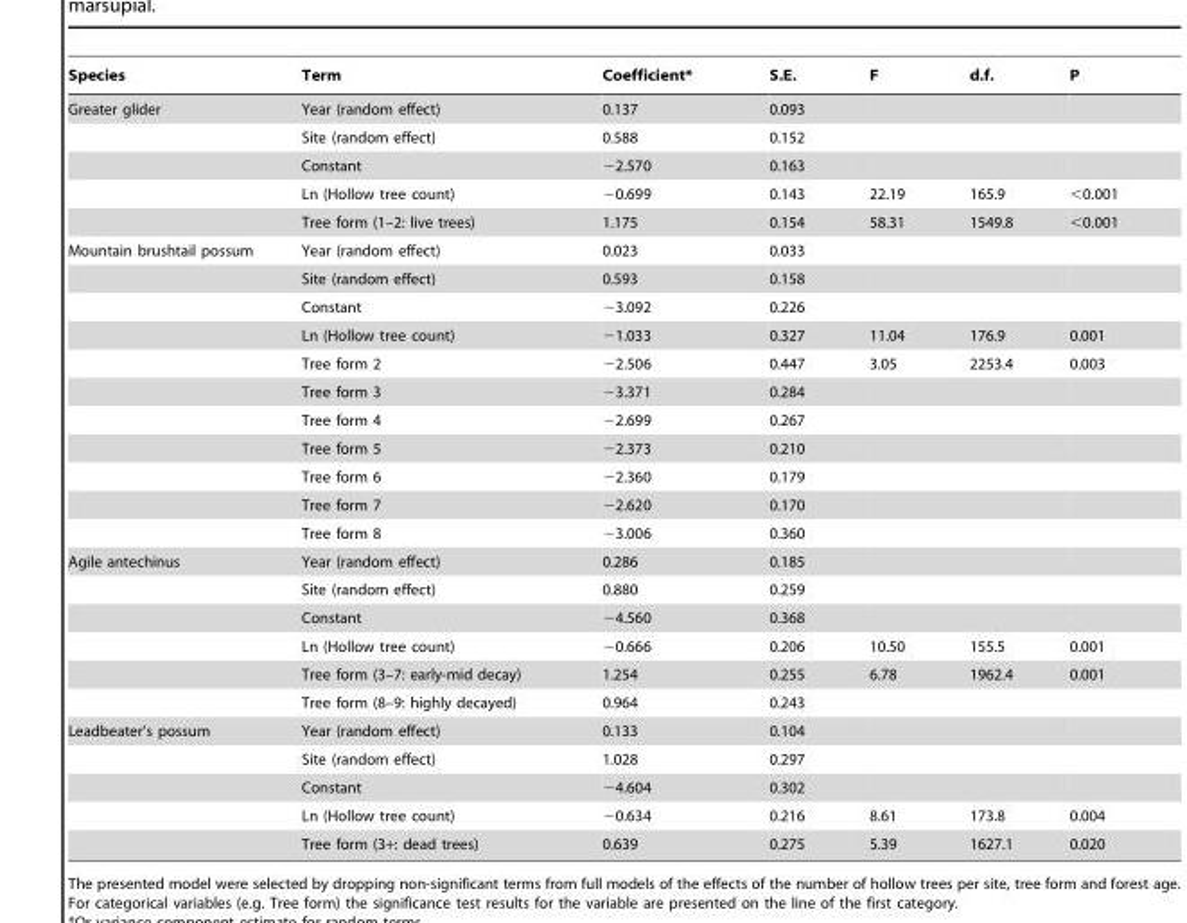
<table><thead><tr><td>Species</td><td>Term</td><td>Coefficient*</td><td>S.E.</td><td>F</td><td>d.f.</td><td>P</td></tr></thead><tbody><tr><td rowspan="5">Greater glider</td><td>Year (random effect)</td><td>0.137</td><td>0.093</td><td></td><td></td><td></td></tr><tr><td>Site (random effect)</td><td>0.588</td><td>0.152</td><td></td><td></td><td></td></tr><tr><td>Constant</td><td>−2.570</td><td>0.163</td><td></td><td></td><td></td></tr><tr><td>Ln (Hollow tree count)</td><td>−0.699</td><td>0.143</td><td>22.19</td><td>165.9</td><td>&lt;0.001</td></tr><tr><td>Tree form (1–2: live trees)</td><td>1.175</td><td>0.154</td><td>58.31</td><td>1549.8</td><td>&lt;0.001</td></tr><tr><td rowspan="11">Mountain brushtail possum</td><td>Year (random effect)</td><td>0.023</td><td>0.033</td><td></td><td></td><td></td></tr><tr><td>Site (random effect)</td><td>0.593</td><td>0.158</td><td></td><td></td><td></td></tr><tr><td>Constant</td><td>−3.092</td><td>0.226</td><td></td><td></td><td></td></tr><tr><td>Ln (Hollow tree count)</td><td>−1.033</td><td>0.327</td><td>11.04</td><td>176.9</td><td>0.001</td></tr><tr><td>Tree form 2</td><td>−2.506</td><td>0.447</td><td>3.05</td><td>2253.4</td><td>0.003</td></tr><tr><td>Tree form 3</td><td>−3.371</td><td>0.284</td><td></td><td></td><td></td></tr><tr><td>Tree form 4</td><td>−2.699</td><td>0.267</td><td></td><td></td><td></td></tr><tr><td>Tree form 5</td><td>−2.373</td><td>0.210</td><td></td><td></td><td></td></tr><tr><td>Tree form 6</td><td>−2.360</td><td>0.179</td><td></td><td></td><td></td></tr><tr><td>Tree form 7</td><td>−2.620</td><td>0.170</td><td></td><td></td><td></td></tr><tr><td>Tree form 8</td><td>−3.006</td><td>0.360</td><td></td><td></td><td></td></tr><tr><td rowspan="6">Agile antechinus</td><td>Year (random effect)</td><td>0.286</td><td>0.185</td><td></td><td></td><td></td></tr><tr><td>Site (random effect)</td><td>0.880</td><td>0.259</td><td></td><td></td><td></td></tr><tr><td>Constant</td><td>−4.560</td><td>0.368</td><td></td><td></td><td></td></tr><tr><td>Ln (Hollow tree count)</td><td>−0.666</td><td>0.206</td><td>10.50</td><td>155.5</td><td>0.001</td></tr><tr><td>Tree form (3–7: early-mid decay)</td><td>1.254</td><td>0.255</td><td>6.78</td><td>1962.4</td><td>0.001</td></tr><tr><td>Tree form (8–9: highly decayed)</td><td>0.964</td><td>0.243</td><td></td><td></td><td></td></tr><tr><td rowspan="5">Leadbeater’s possum</td><td>Year (random effect)</td><td>0.133</td><td>0.104</td><td></td><td></td><td></td></tr><tr><td>Site (random effect)</td><td>1.028</td><td>0.297</td><td></td><td></td><td></td></tr><tr><td>Constant</td><td>−4.604</td><td>0.302</td><td></td><td></td><td></td></tr><tr><td>Ln (Hollow tree count)</td><td>−0.634</td><td>0.216</td><td>8.61</td><td>173.8</td><td>0.004</td></tr><tr><td>Tree form (3+: dead trees)</td><td>0.639</td><td>0.275</td><td>5.39</td><td>1627.1</td><td>0.020</td></tr></tbody></table>